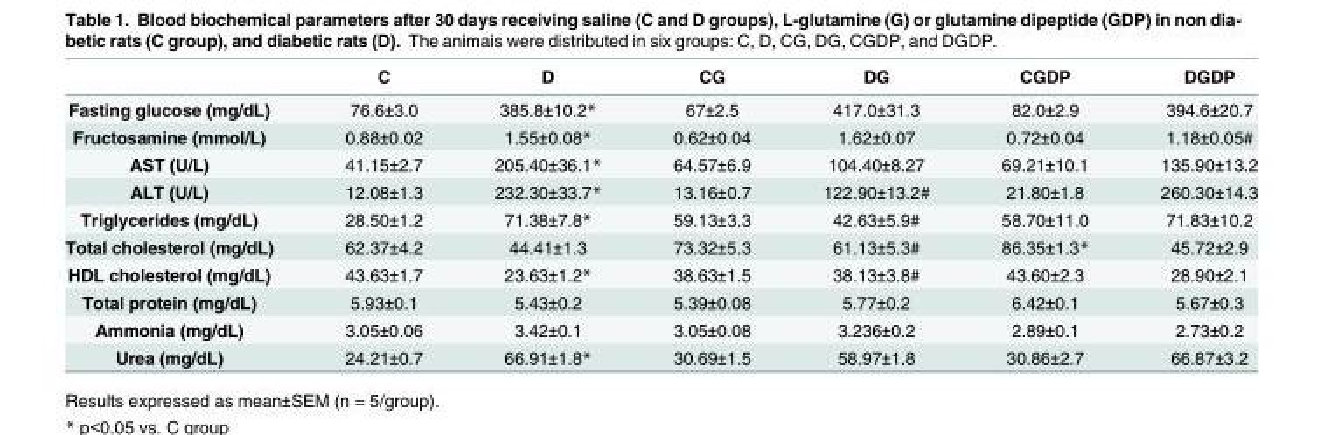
<table><thead><tr><td></td><td>C</td><td>D</td><td>CG</td><td>DG</td><td>CGDP</td><td>DGDP</td></tr></thead><tbody><tr><td>Fasting glucose (mg/dL)</td><td>76.6±3.0</td><td>385.8±10.2*</td><td>67±2.5</td><td>417.0±31.3</td><td>82.0±2.9</td><td>394.6±20.7</td></tr><tr><td>Fructosamine (mmol/L)</td><td>0.88±0.02</td><td>1.55±0.08*</td><td>0.62±0.04</td><td>1.62±0.07</td><td>0.72±0.04</td><td>1.18±0.05#</td></tr><tr><td>AST (U/L)</td><td>41.15±2.7</td><td>205.40±36.1*</td><td>64.57±6.9</td><td>104.40±8.27</td><td>69.21±10.1</td><td>135.90±13.2</td></tr><tr><td>ALT (U/L)</td><td>12.08±1.3</td><td>232.30±33.7*</td><td>13.16±0.7</td><td>122.90±13.2#</td><td>21.80±1.8</td><td>260.30±14.3</td></tr><tr><td>Triglycerides (mg/dL)</td><td>28.50±1.2</td><td>71.38±7.8*</td><td>59.13±3.3</td><td>42.63±5.9#</td><td>58.70±11.0</td><td>71.83±10.2</td></tr><tr><td>Total cholesterol (mg/dL)</td><td>62.37±4.2</td><td>44.41±1.3</td><td>73.32±5.3</td><td>61.13±5.3#</td><td>86.35±1.3*</td><td>45.72±2.9</td></tr><tr><td>HDL cholesterol (mg/dL)</td><td>43.63±1.7</td><td>23.63±1.2*</td><td>38.63±1.5</td><td>38.13±3.8#</td><td>43.60±2.3</td><td>28.90±2.1</td></tr><tr><td>Total protein (mg/dL)</td><td>5.93±0.1</td><td>5.43±0.2</td><td>5.39±0.08</td><td>5.77±0.2</td><td>6.42±0.1</td><td>5.67±0.3</td></tr><tr><td>Ammonia (mg/dL)</td><td>3.05±0.06</td><td>3.42±0.1</td><td>3.05±0.08</td><td>3.236±0.2</td><td>2.89±0.1</td><td>2.73±0.2</td></tr><tr><td>Urea (mg/dL)</td><td>24.21±0.7</td><td>66.91±1.8*</td><td>30.69±1.5</td><td>58.97±1.8</td><td>30.86±2.7</td><td>66.87±3.2</td></tr></tbody></table>